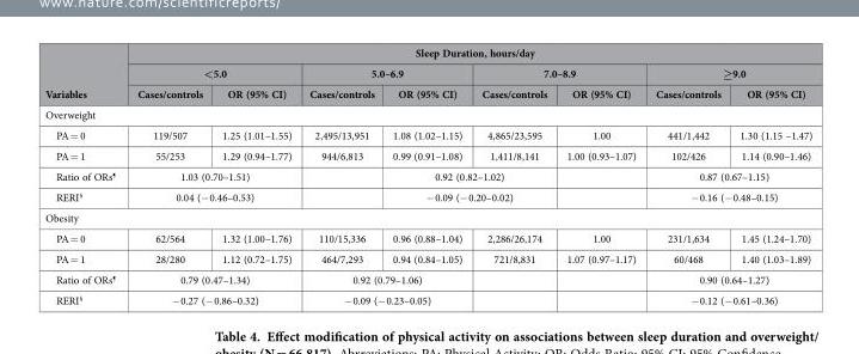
<table><thead><tr><td rowspan="3">Variables</td><td colspan="8">Sleep Duration, hours/day</td></tr><tr><td colspan="2">&lt;5.0</td><td colspan="2">5.0–6.9</td><td colspan="2">7.0–8.9</td><td colspan="2">≥9.0</td></tr><tr><td>Cases/controls</td><td>OR (95% CI)</td><td>Cases/controls</td><td>OR (95% CI)</td><td>Cases/controls</td><td>OR (95% CI)</td><td>Cases/controls</td><td>OR (95% CI)</td></tr></thead><tbody><tr><td colspan="9">Overweight</td></tr><tr><td>PA = 0</td><td>119/507</td><td>1.25 (1.01–1.55)</td><td>2,495/13,951</td><td>1.08 (1.02–1.15)</td><td>4,865/23,595</td><td>1.00</td><td>441/1,442</td><td>1.30 (1.15 –1.47)</td></tr><tr><td>PA = 1</td><td>55/253</td><td>1.29 (0.94–1.77)</td><td>944/6,813</td><td>0.99 (0.91–1.08)</td><td>1,411/8,141</td><td>1.00 (0.93–1.07)</td><td>102/426</td><td>1.14 (0.90–1.46)</td></tr><tr><td>Ratio of ORs<sup>¶</sup></td><td colspan="2">1.03 (0.70–1.51)</td><td></td><td colspan="2">0.92 (0.82–1.02)</td><td></td><td colspan="2">0.87 (0.67–1.15)</td></tr><tr><td>RERI<sup>§</sup></td><td colspan="2">0.04 (− 0.46–0.53)</td><td></td><td colspan="2">− 0.09 (− 0.20–0.02)</td><td></td><td colspan="2">− 0.16 (− 0.48–0.15)</td></tr><tr><td colspan="9">Obesity</td></tr><tr><td>PA = 0</td><td>62/564</td><td>1.32 (1.00–1.76)</td><td>110/15,336</td><td>0.96 (0.88–1.04)</td><td>2,286/26,174</td><td>1.00</td><td>231/1,634</td><td>1.45 (1.24–1.70)</td></tr><tr><td>PA = 1</td><td>28/280</td><td>1.12 (0.72–1.75)</td><td>464/7,293</td><td>0.94 (0.84–1.05)</td><td>721/8,831</td><td>1.07 (0.97–1.17)</td><td>60/468</td><td>1.40 (1.03–1.89)</td></tr><tr><td>Ratio of ORs<sup>¶</sup></td><td colspan="2">0.79 (0.47–1.34)</td><td colspan="2">0.92 (0.79–1.06)</td><td></td><td></td><td colspan="2">0.90 (0.64–1.27)</td></tr><tr><td>RERI<sup>§</sup></td><td colspan="2">− 0.27 (− 0.86–0.32)</td><td colspan="2">− 0.09 (− 0.23–0.05)</td><td></td><td></td><td colspan="2">− 0.12 (− 0.61–0.36)</td></tr></tbody></table>